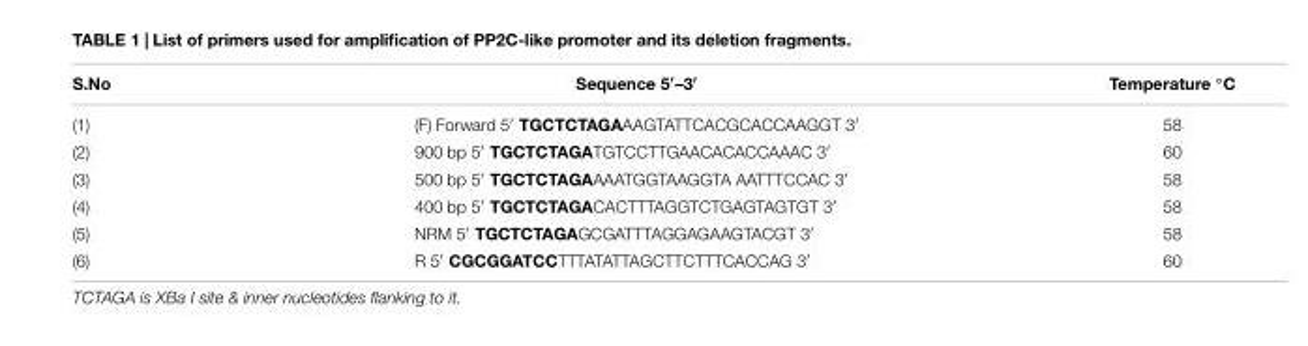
<table><thead><tr><td>S.No</td><td>Sequence 5′–3′</td><td>Temperature ◦C</td></tr></thead><tbody><tr><td>(1)</td><td>(F) Forward 5′ TGCTCTAGAAAGTATTCACGCACCAAGGT 3′</td><td>58</td></tr><tr><td>(2)</td><td>900 bp 5′ TGCTCTAGATGTCCTTGAACACACCAAAC 3′</td><td>60</td></tr><tr><td>(3)</td><td>500 bp 5′ TGCTCTAGAAAATGGTAAGGTA AATTTCCAC 3′</td><td>58</td></tr><tr><td>(4)</td><td>400 bp 5′ TGCTCTAGACACTTTAGGTCTGAGTAGTGT 3′</td><td>58</td></tr><tr><td>(5)</td><td>NRM 5′ TGCTCTAGAGCGATTTAGGAGAAGTACGT 3′</td><td>58</td></tr><tr><td>(6)</td><td>R 5′ CGCGGATCCTTTATATTAGCTTCTTTCACCAG 3′</td><td>60</td></tr></tbody></table>